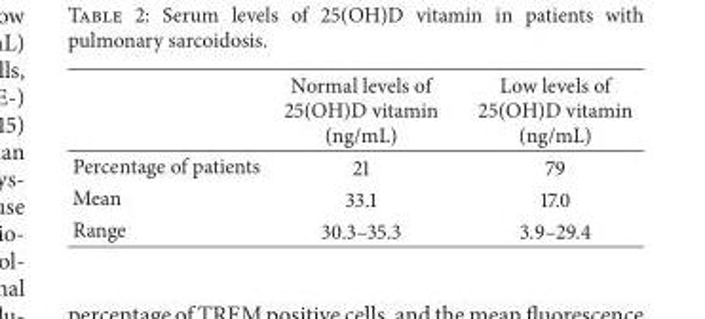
<table><thead><tr><td></td><td>Normal levels of 25(OH)D vitamin (ng/mL)</td><td>Low levels of 25(OH)D vitamin (ng/mL)</td></tr></thead><tbody><tr><td>Percentage of patients</td><td>21</td><td>79</td></tr><tr><td>Mean</td><td>33.1</td><td>17.0</td></tr><tr><td>Range</td><td>30.3–35.3</td><td>3.9–29.4</td></tr></tbody></table>